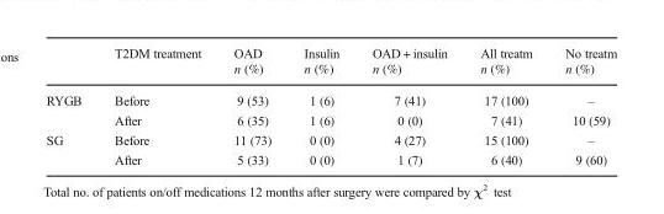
<table><thead><tr><td rowspan="2"></td><td rowspan="2">T2DM treatment</td><td rowspan="2">OAD n (%)</td><td rowspan="2">Insulin n (%)</td><td rowspan="2">OAD + insulin n (%)</td><td rowspan="2">All treatm n (%)</td><td rowspan="2">No treatm n (%)</td></tr><tr></tr></thead><tbody><tr><td rowspan="2">RYGB</td><td>Before</td><td>9 (53)</td><td>1 (6)</td><td>7 (41)</td><td>17 (100)</td><td>–</td></tr><tr><td>After</td><td>6 (35)</td><td>1 (6)</td><td>0 (0)</td><td>7 (41)</td><td>10 (59)</td></tr><tr><td rowspan="2">SG</td><td>Before</td><td>11 (73)</td><td>0 (0)</td><td>4 (27)</td><td>15 (100)</td><td>–</td></tr><tr><td>After</td><td>5 (33)</td><td>0 (0)</td><td>1 (7)</td><td>6 (40)</td><td>9 (60)</td></tr></tbody></table>